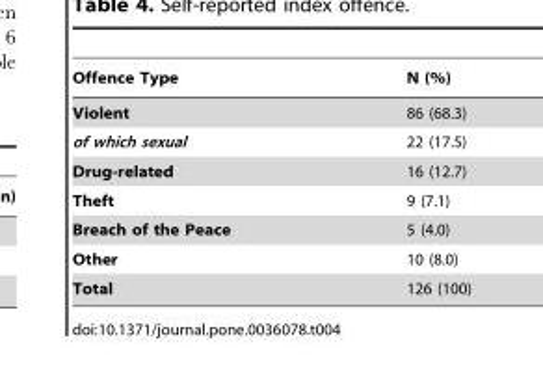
<table><thead><tr><td>Offence Type</td><td>N (%)</td></tr></thead><tbody><tr><td>Violent</td><td>86 (68.3)</td></tr><tr><td>of which sexual</td><td>22 (17.5)</td></tr><tr><td>Drug-related</td><td>16 (12.7)</td></tr><tr><td>Theft</td><td>9 (7.1)</td></tr><tr><td>Breach of the Peace</td><td>5 (4.0)</td></tr><tr><td>Other</td><td>10 (8.0)</td></tr><tr><td>Total</td><td>126 (100)</td></tr></tbody></table>